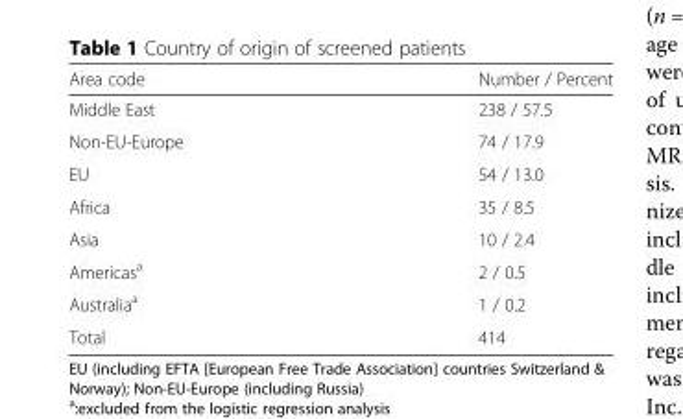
<table><thead><tr><td>Area code</td><td>Number / Percent</td></tr></thead><tbody><tr><td>Middle East</td><td>238 / 57.5</td></tr><tr><td>Non-EU-Europe</td><td>74 / 17.9</td></tr><tr><td>EU</td><td>54 / 13.0</td></tr><tr><td>Africa</td><td>35 / 8.5</td></tr><tr><td>Asia</td><td>10 / 2.4</td></tr><tr><td>Americas<sup>a</sup></td><td>2 / 0.5</td></tr><tr><td>Australia<sup>a</sup></td><td>1 / 0.2</td></tr><tr><td>Total</td><td>414</td></tr></tbody></table>